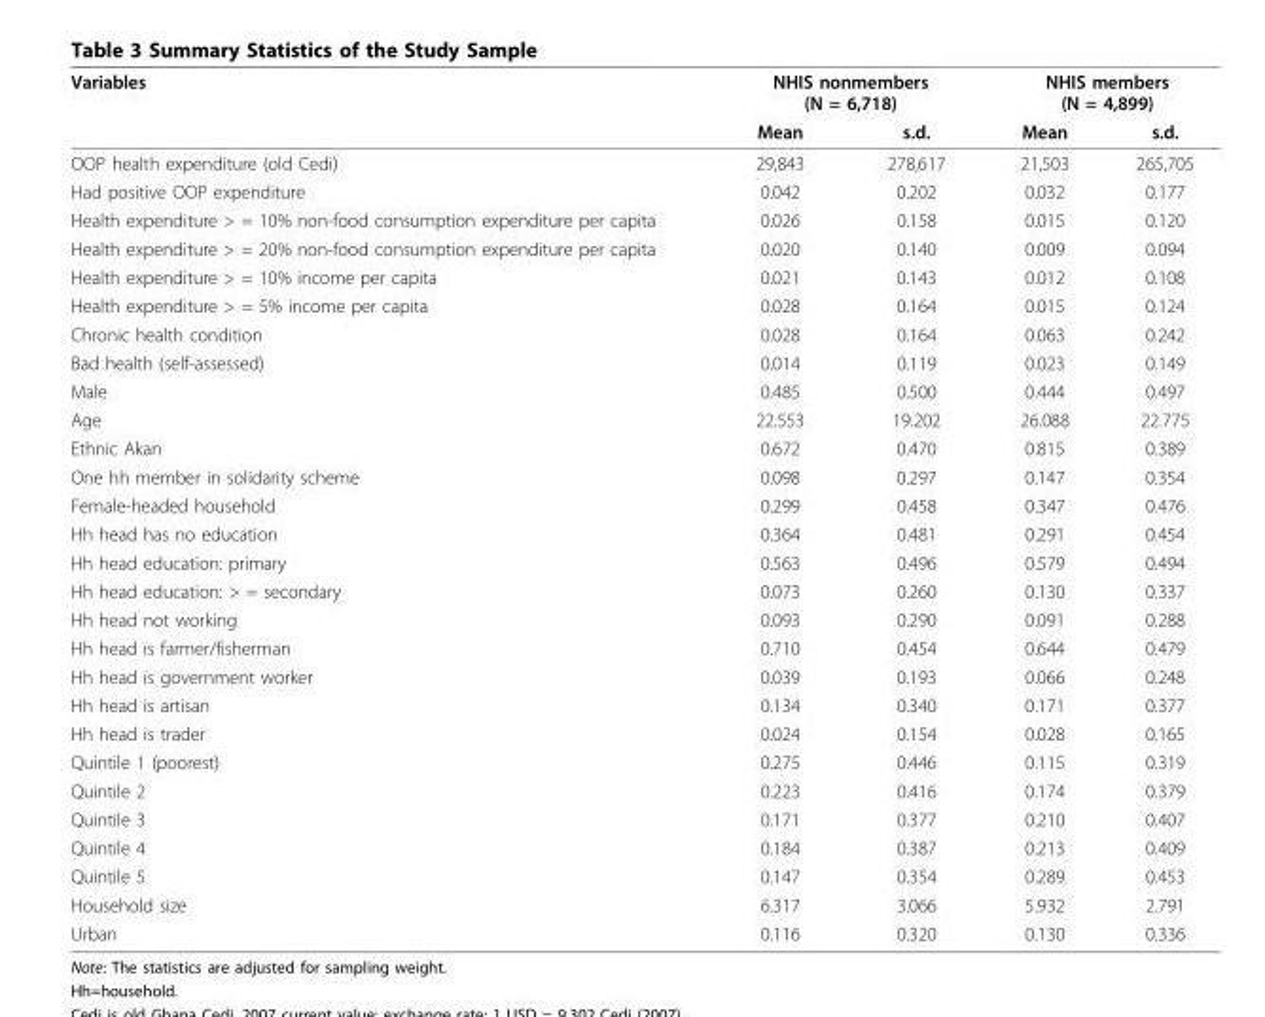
<table><thead><tr><td rowspan="2">Variables</td><td colspan="2">NHIS nonmembers (N = 6,718)</td><td colspan="2">NHIS members (N = 4,899)</td></tr><tr><td>Mean</td><td>s.d.</td><td>Mean</td><td>s.d.</td></tr></thead><tbody><tr><td>OOP health expenditure (old Cedi)</td><td>29,843</td><td>278,617</td><td>21,503</td><td>265,705</td></tr><tr><td>Had positive OOP expenditure</td><td>0.042</td><td>0.202</td><td>0.032</td><td>0.177</td></tr><tr><td>Health expenditure &gt; = 10% non-food consumption expenditure per capita</td><td>0.026</td><td>0.158</td><td>0.015</td><td>0.120</td></tr><tr><td>Health expenditure &gt; = 20% non-food consumption expenditure per capita</td><td>0.020</td><td>0.140</td><td>0.009</td><td>0.094</td></tr><tr><td>Health expenditure &gt; = 10% income per capita</td><td>0.021</td><td>0.143</td><td>0.012</td><td>0.108</td></tr><tr><td>Health expenditure &gt; = 5% income per capita</td><td>0.028</td><td>0.164</td><td>0.015</td><td>0.124</td></tr><tr><td>Chronic health condition</td><td>0.028</td><td>0.164</td><td>0.063</td><td>0.242</td></tr><tr><td>Bad health (self-assessed)</td><td>0.014</td><td>0.119</td><td>0.023</td><td>0.149</td></tr><tr><td>Male</td><td>0.485</td><td>0.500</td><td>0.444</td><td>0.497</td></tr><tr><td>Age</td><td>22.553</td><td>19.202</td><td>26.088</td><td>22.775</td></tr><tr><td>Ethnic Akan</td><td>0.672</td><td>0.470</td><td>0.815</td><td>0.389</td></tr><tr><td>One hh member in solidarity scheme</td><td>0.098</td><td>0.297</td><td>0.147</td><td>0.354</td></tr><tr><td>Female-headed household</td><td>0.299</td><td>0.458</td><td>0.347</td><td>0.476</td></tr><tr><td>Hh head has no education</td><td>0.364</td><td>0.481</td><td>0.291</td><td>0.454</td></tr><tr><td>Hh head education: primary</td><td>0.563</td><td>0.496</td><td>0.579</td><td>0.494</td></tr><tr><td>Hh head education: &gt; = secondary</td><td>0.073</td><td>0.260</td><td>0.130</td><td>0.337</td></tr><tr><td>Hh head not working</td><td>0.093</td><td>0.290</td><td>0.091</td><td>0.288</td></tr><tr><td>Hh head is farmer/fisherman</td><td>0.710</td><td>0.454</td><td>0.644</td><td>0.479</td></tr><tr><td>Hh head is government worker</td><td>0.039</td><td>0.193</td><td>0.066</td><td>0.248</td></tr><tr><td>Hh head is artisan</td><td>0.134</td><td>0.340</td><td>0.171</td><td>0.377</td></tr><tr><td>Hh head is trader</td><td>0.024</td><td>0.154</td><td>0.028</td><td>0.165</td></tr><tr><td>Quintile 1 (poorest)</td><td>0.275</td><td>0.446</td><td>0.115</td><td>0.319</td></tr><tr><td>Quintile 2</td><td>0.223</td><td>0.416</td><td>0.174</td><td>0.379</td></tr><tr><td>Quintile 3</td><td>0.171</td><td>0.377</td><td>0.210</td><td>0.407</td></tr><tr><td>Quintile 4</td><td>0.184</td><td>0.387</td><td>0.213</td><td>0.409</td></tr><tr><td>Quintile 5</td><td>0.147</td><td>0.354</td><td>0.289</td><td>0.453</td></tr><tr><td>Household size</td><td>6.317</td><td>3.066</td><td>5.932</td><td>2.791</td></tr><tr><td>Urban</td><td>0.116</td><td>0.320</td><td>0.130</td><td>0.336</td></tr></tbody></table>